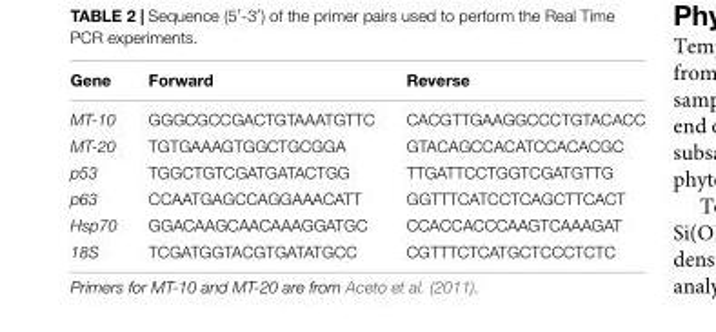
<table><thead><tr><td>Gene</td><td>Forward</td><td>Reverse</td></tr></thead><tbody><tr><td>MT-10</td><td>GGGCGCCGACTGTAAATGTTC</td><td>CACGTTGAAGGCCCTGTACACC</td></tr><tr><td>MT-20</td><td>TGTGAAAGTGGCTGCGGA</td><td>GTACAGCCACATCCACACGC</td></tr><tr><td>p53</td><td>TGGCTGTCGATGATACTGG</td><td>TTGATTCCTGGTCGATGTTG</td></tr><tr><td>p63</td><td>CCAATGAGCCAGGAAACATT</td><td>GGTTTCATCCTCAGCTTCACT</td></tr><tr><td>Hsp70</td><td>GGACAAGCAACAAAGGATGC</td><td>CCACCACCCAAGTCAAAGAT</td></tr><tr><td>18S</td><td>TCGATGGTACGTGATATGCC</td><td>CGTTTCTCATGCTCCCTCTC</td></tr></tbody></table>